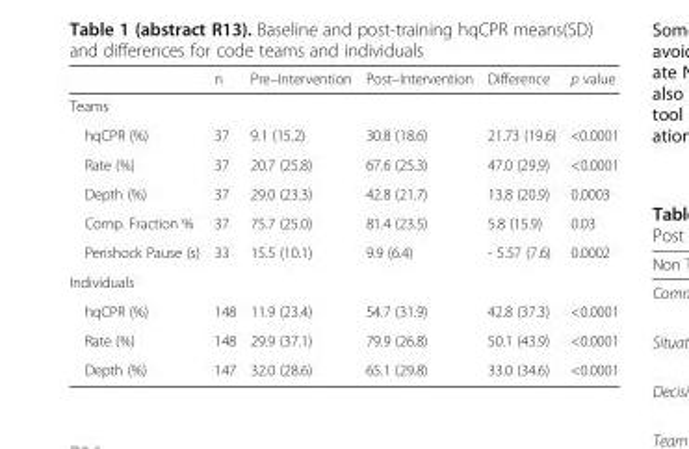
<table><thead><tr><td></td><td>n</td><td>Pre–Intervention</td><td>Post–Intervention</td><td>Difference</td><td>p value</td></tr></thead><tbody><tr><td colspan="6">Teams</td></tr><tr><td>hqCPR (%)</td><td>37</td><td>9.1 (15.2)</td><td>30.8 (18.6)</td><td>21.73 (19.6)</td><td>&lt;0.0001</td></tr><tr><td>Rate (%)</td><td>37</td><td>20.7 (25.8)</td><td>67.6 (25.3)</td><td>47.0 (29.9)</td><td>&lt;0.0001</td></tr><tr><td>Depth (%)</td><td>37</td><td>29.0 (23.3)</td><td>42.8 (21.7)</td><td>13.8 (20.9)</td><td>0.0003</td></tr><tr><td>Comp. Fraction %</td><td>37</td><td>75.7 (25.0)</td><td>81.4 (23.5)</td><td>5.8 (15.9)</td><td>0.03</td></tr><tr><td>Perishock Pause (s)</td><td>33</td><td>15.5 (10.1)</td><td>9.9 (6.4)</td><td>- 5.57 (7.6)</td><td>0.0002</td></tr><tr><td colspan="6">Individuals</td></tr><tr><td>hqCPR (%)</td><td>148</td><td>11.9 (23.4)</td><td>54.7 (31.9)</td><td>42.8 (37.3)</td><td>&lt;0.0001</td></tr><tr><td>Rate (%)</td><td>148</td><td>29.9 (37.1)</td><td>79.9 (26.8)</td><td>50.1 (43.9)</td><td>&lt;0.0001</td></tr><tr><td>Depth (%)</td><td>147</td><td>32.0 (28.6)</td><td>65.1 (29.8)</td><td>33.0 (34.6)</td><td>&lt;0.0001</td></tr></tbody></table>